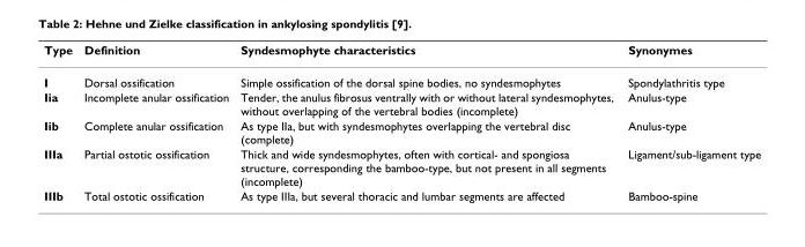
<table><thead><tr><td>Type</td><td>Definition</td><td>Syndesmophyte characteristics</td><td>Synonymes</td></tr></thead><tbody><tr><td>I</td><td>Dorsal ossification</td><td>Simple ossification of the dorsal spine bodies, no syndesmophytes</td><td>Spondylathritis type</td></tr><tr><td>Iia</td><td>Incomplete anular ossification</td><td>Tender, the anulus fibrosus ventrally with or without lateral syndesmophytes, without overlapping of the vertebral bodies (incomplete)</td><td>Anulus-type</td></tr><tr><td>Iib</td><td>Complete anular ossification</td><td>As type IIa, but with syndesmophytes overlapping the vertebral disc (complete)</td><td>Anulus-type</td></tr><tr><td>IIIa</td><td>Partial ostotic ossification</td><td>Thick and wide syndesmophytes, often with cortical- and spongiosa structure, corresponding the bamboo-type, but not present in all segments (incomplete)</td><td>Ligament/sub-ligament type</td></tr><tr><td>IIIb</td><td>Total ostotic ossification</td><td>As type IIIa, but several thoracic and lumbar segments are affected</td><td>Bamboo-spine</td></tr></tbody></table>